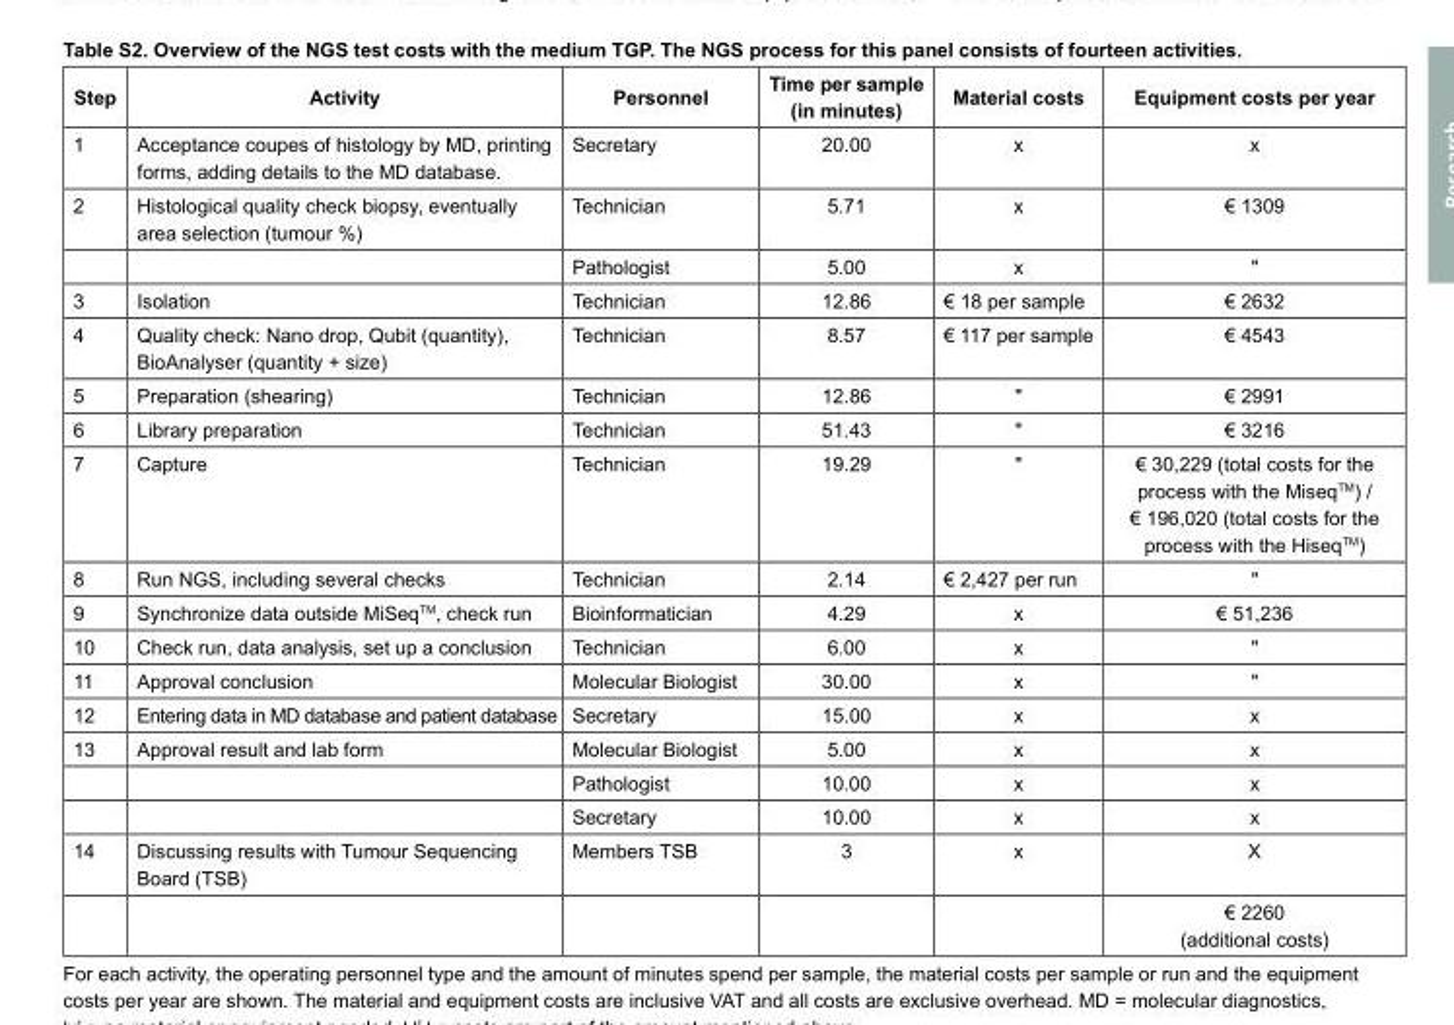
<table><thead><tr><td>Step</td><td>Activity</td><td>Personnel</td><td>Time per sample (in minutes)</td><td>Material costs</td><td>Equipment costs per year</td></tr></thead><tbody><tr><td>1</td><td>Acceptance coupes of histology by MD, printing forms, adding details to the MD database.</td><td>Secretary</td><td>20.00</td><td>x</td><td>x</td></tr><tr><td rowspan="2">2</td><td>Histological quality check biopsy, eventually area selection (tumour %)</td><td>Technician</td><td>5.71</td><td>x</td><td>€ 1309</td></tr><tr><td></td><td>Pathologist</td><td>5.00</td><td>x</td><td>ʺ</td></tr><tr><td>3</td><td>Isolation</td><td>Technician</td><td>12.86</td><td>€ 18 per sample</td><td>€ 2632</td></tr><tr><td>4</td><td>Quality check: Nano drop, Qubit (quantity), BioAnalyser (quantity + size)</td><td>Technician</td><td>8.57</td><td>€ 117 per sample</td><td>€ 4543</td></tr><tr><td>5</td><td>Preparation (shearing)</td><td>Technician</td><td>12.86</td><td>ʺ</td><td>€ 2991</td></tr><tr><td>6</td><td>Library preparation</td><td>Technician</td><td>51.43</td><td>ʺ</td><td>€ 3216</td></tr><tr><td>7</td><td>Capture</td><td>Technician</td><td>19.29</td><td>ʺ</td><td>€ 30,229 (total costs for the process with the Miseq<sup>TM</sup>) / € 196,020 (total costs for the process with the Hiseq<sup>TM</sup>)</td></tr><tr><td>8</td><td>Run NGS, including several checks</td><td>Technician</td><td>2.14</td><td>€ 2,427 per run</td><td>ʺ</td></tr><tr><td>9</td><td>Synchronize data outside MiSeq<sup>TM</sup>, check run</td><td>Bioinformatician</td><td>4.29</td><td>x</td><td>€ 51,236</td></tr><tr><td>10</td><td>Check run, data analysis, set up a conclusion</td><td>Technician</td><td>6.00</td><td>x</td><td>ʺ</td></tr><tr><td>11</td><td>Approval conclusion</td><td>Molecular Biologist</td><td>30.00</td><td>x</td><td>ʺ</td></tr><tr><td>12</td><td>Entering data in MD database and patient database</td><td>Secretary</td><td>15.00</td><td>x</td><td>x</td></tr><tr><td rowspan="3">13</td><td>Approval result and lab form</td><td>Molecular Biologist</td><td>5.00</td><td>x</td><td>x</td></tr><tr><td></td><td>Pathologist</td><td>10.00</td><td>x</td><td>x</td></tr><tr><td></td><td>Secretary</td><td>10.00</td><td>x</td><td>x</td></tr><tr><td rowspan="2">14</td><td>Discussing results with Tumour Sequencing Board (TSB)</td><td>Members TSB</td><td>3</td><td>x</td><td>X</td></tr><tr><td></td><td></td><td></td><td></td><td>€ 2260 (additional costs)</td></tr></tbody></table>